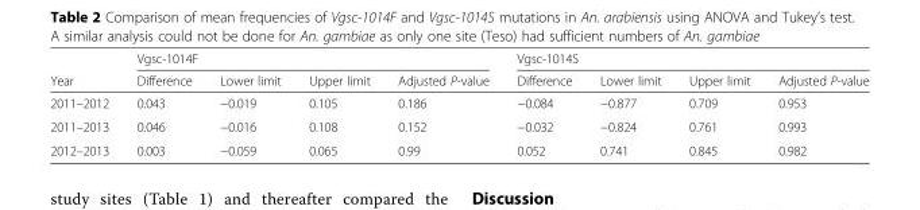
<table><thead><tr><td rowspan="2">Year</td><td colspan="4">Vgsc-1014F</td><td colspan="4">Vgsc-1014S</td></tr><tr><td>Difference</td><td>Lower limit</td><td>Upper limit</td><td>Adjusted P-value</td><td>Difference</td><td>Lower limit</td><td>Upper limit</td><td>Adjusted P-value</td></tr></thead><tbody><tr><td>2011–2012</td><td>0.043</td><td>−0.019</td><td>0.105</td><td>0.186</td><td>−0.084</td><td>−0.877</td><td>0.709</td><td>0.953</td></tr><tr><td>2011–2013</td><td>0.046</td><td>−0.016</td><td>0.108</td><td>0.152</td><td>−0.032</td><td>−0.824</td><td>0.761</td><td>0.993</td></tr><tr><td>2012–2013</td><td>0.003</td><td>−0.059</td><td>0.065</td><td>0.99</td><td>0.052</td><td>0.741</td><td>0.845</td><td>0.982</td></tr></tbody></table>